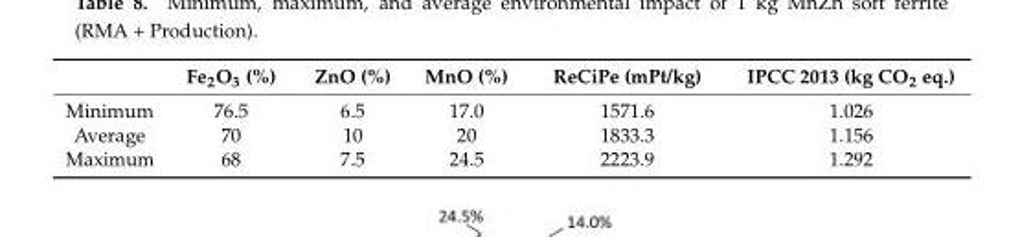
<table><thead><tr><td></td><td>Fe<sub>2</sub>O<sub>3</sub> (%)</td><td>ZnO (%)</td><td>MnO (%)</td><td>ReCiPe (mPt/kg)</td><td>IPCC 2013 (kg CO<sub>2</sub> eq.)</td></tr></thead><tbody><tr><td>Minimum</td><td>76.5</td><td>6.5</td><td>17.0</td><td>1571.6</td><td>1.026</td></tr><tr><td>Average</td><td>70</td><td>10</td><td>20</td><td>1833.3</td><td>1.156</td></tr><tr><td>Maximum</td><td>68</td><td>7.5</td><td>24.5</td><td>2223.9</td><td>1.292</td></tr></tbody></table>